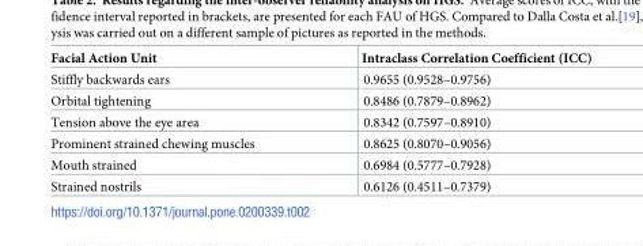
<table><thead><tr><td>Facial Action Unit</td><td>Intraclass Correlation Coefficient (ICC)</td></tr></thead><tbody><tr><td>Stiffly backwards ears</td><td>0.9655 (0.9528–0.9756)</td></tr><tr><td>Orbital tightening</td><td>0.8486 (0.7879–0.8962)</td></tr><tr><td>Tension above the eye area</td><td>0.8342 (0.7597–0.8910)</td></tr><tr><td>Prominent strained chewing muscles</td><td>0.8625 (0.8070–0.9056)</td></tr><tr><td>Mouth strained</td><td>0.6984 (0.5777–0.7928)</td></tr><tr><td>Strained nostrils</td><td>0.6126 (0.4511–0.7379)</td></tr></tbody></table>